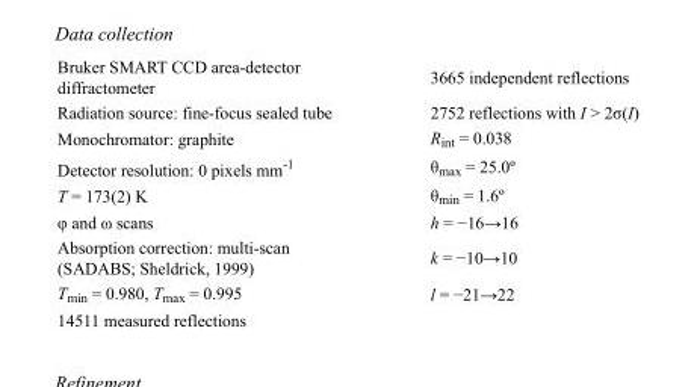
<table><tbody><tr><td>Bruker SMART CCD area-detector diffractometer</td><td>3665 independent reflections</td></tr><tr><td>Radiation source: fine-focus sealed tube</td><td>2752 reflections with I &gt; 2σ(I)</td></tr><tr><td>Monochromator: graphite</td><td>R<sub>int</sub> = 0.038</td></tr><tr><td>Detector resolution: 0 pixels mm<sup>-1</sup></td><td>θ<sub>max</sub> = 25.0º</td></tr><tr><td>T = 173(2) K</td><td>θ<sub>min</sub> = 1.6º</td></tr><tr><td>φ and ω scans</td><td>h = −16→16</td></tr><tr><td>Absorption correction: multi-scan (SADABS; Sheldrick, 1999)</td><td>k = −10→10</td></tr><tr><td>T<sub>min</sub> = 0.980, T<sub>max</sub> = 0.995</td><td>l = −21→22</td></tr><tr><td>14511 measured reflections</td><td></td></tr></tbody></table>